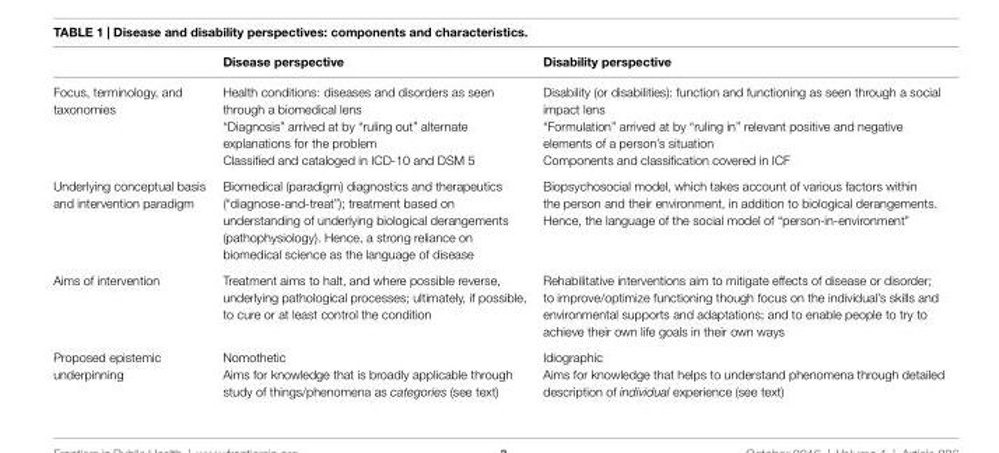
<table><thead><tr><td></td><td>Disease perspective</td><td>Disability perspective</td></tr></thead><tbody><tr><td rowspan="3">Focus, terminology, and taxonomies</td><td>Health conditions: diseases and disorders as seen through a biomedical lens</td><td>Disability (or disabilities): function and functioning as seen through a social impact lens</td></tr><tr><td>“Diagnosis” arrived at by “ruling out” alternate explanations for the problem</td><td>“Formulation” arrived at by “ruling in” relevant positive and negative elements of a person’s situation</td></tr><tr><td>Classified and cataloged in ICD-10 and DSM 5</td><td>Components and classification covered in ICF</td></tr><tr><td>Underlying conceptual basis and intervention paradigm</td><td>Biomedical (paradigm) diagnostics and therapeutics (“diagnose-and-treat”); treatment based on understanding of underlying biological derangements (pathophysiology). Hence, a strong reliance on biomedical science as the language of disease</td><td>Biopsychosocial model, which takes account of various factors within the person and their environment, in addition to biological derangements. Hence, the language of the social model of “person-in-environment”</td></tr><tr><td>Aims of intervention</td><td>Treatment aims to halt, and where possible reverse, underlying pathological processes; ultimately, if possible, to cure or at least control the condition</td><td>Rehabilitative interventions aim to mitigate effects of disease or disorder; to improve/optimize functioning though focus on the individual’s skills and environmental supports and adaptations; and to enable people to try to achieve their own life goals in their own ways</td></tr><tr><td rowspan="2">Proposed epistemic underpinning</td><td>Nomothetic</td><td>Idiographic</td></tr><tr><td>Aims for knowledge that is broadly applicable through study of things/phenomena as categories (see text)</td><td>Aims for knowledge that helps to understand phenomena through detailed description of individual experience (see text)</td></tr></tbody></table>